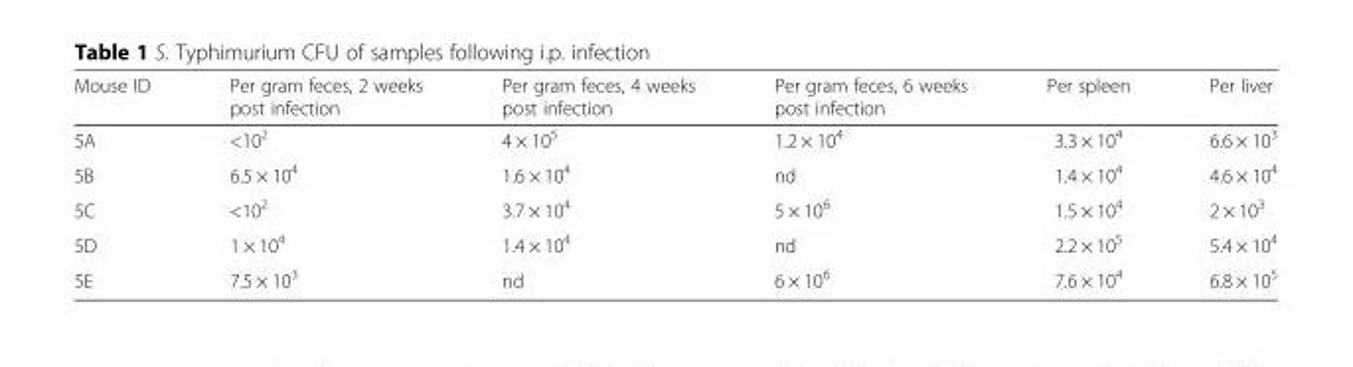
<table><thead><tr><td>Mouse ID</td><td>Per gram feces, 2 weeks post infection</td><td>Per gram feces, 4 weeks post infection</td><td>Per gram feces, 6 weeks post infection</td><td>Per spleen</td><td>Per liver</td></tr></thead><tbody><tr><td>5A</td><td>&lt;10<sup>2</sup></td><td>4 × 10<sup>5</sup></td><td>1.2 × 10<sup>4</sup></td><td>3.3 × 10<sup>4</sup></td><td>6.6 × 10<sup>3</sup></td></tr><tr><td>5B</td><td>6.5 × 10<sup>4</sup></td><td>1.6 × 10<sup>4</sup></td><td>nd</td><td>1.4 × 10<sup>4</sup></td><td>4.6 × 10<sup>4</sup></td></tr><tr><td>5C</td><td>&lt;10<sup>2</sup></td><td>3.7 × 10<sup>4</sup></td><td>5 × 10<sup>6</sup></td><td>1.5 × 10<sup>4</sup></td><td>2 × 10<sup>3</sup></td></tr><tr><td>5D</td><td>1 × 10<sup>4</sup></td><td>1.4 × 10<sup>4</sup></td><td>nd</td><td>2.2 × 10<sup>5</sup></td><td>5.4 × 10<sup>4</sup></td></tr><tr><td>5E</td><td>7.5 × 10<sup>3</sup></td><td>nd</td><td>6 × 10<sup>6</sup></td><td>7.6 × 10<sup>4</sup></td><td>6.8 × 10<sup>5</sup></td></tr></tbody></table>